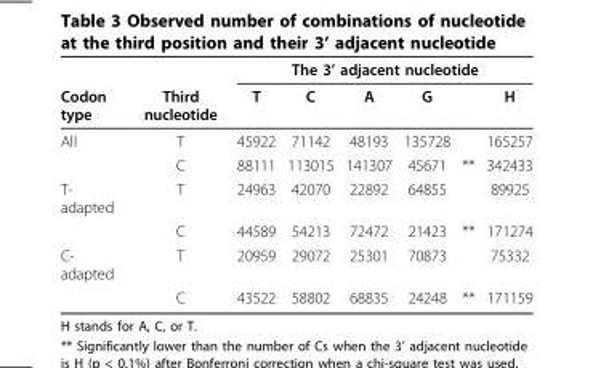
<table><thead><tr><td rowspan="2">Codon type</td><td rowspan="2">Third nucleotide</td><td colspan="6">The 3’ adjacent nucleotide</td></tr><tr><td>T</td><td>C</td><td>A</td><td>G</td><td></td><td>H</td></tr></thead><tbody><tr><td rowspan="2">All</td><td>T</td><td>45922</td><td>71142</td><td>48193</td><td>135728</td><td></td><td>165257</td></tr><tr><td>C</td><td>88111</td><td>113015</td><td>141307</td><td>45671</td><td>**</td><td>342433</td></tr><tr><td rowspan="2">T- adapted</td><td>T</td><td>24963</td><td>42070</td><td>22892</td><td>64855</td><td></td><td>89925</td></tr><tr><td>C</td><td>44589</td><td>54213</td><td>72472</td><td>21423</td><td>**</td><td>171274</td></tr><tr><td rowspan="2">C- adapted</td><td>T</td><td>20959</td><td>29072</td><td>25301</td><td>70873</td><td></td><td>75332</td></tr><tr><td>C</td><td>43522</td><td>58802</td><td>68835</td><td>24248</td><td>**</td><td>171159</td></tr></tbody></table>